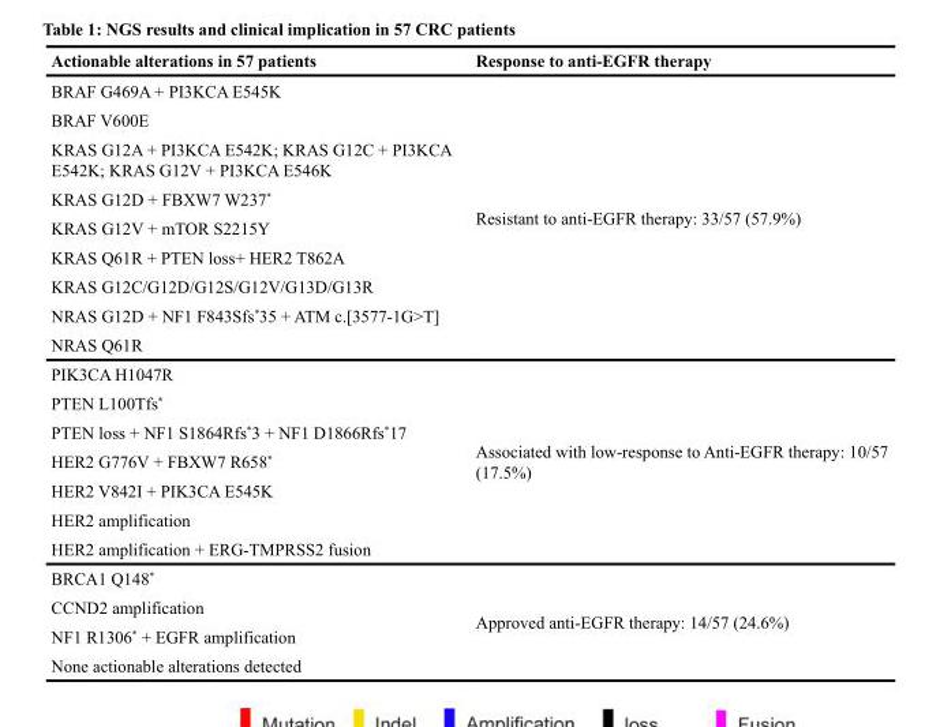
<table><thead><tr><td>Actionable alterations in 57 patients</td><td>Response to anti-EGFR therapy</td></tr></thead><tbody><tr><td>BRAF G469A + PI3KCA E545K</td><td rowspan="9">Resistant to anti-EGFR therapy: 33/57 (57.9%)</td></tr><tr><td>BRAF V600E</td></tr><tr><td>KRAS G12A + PI3KCA E542K; KRAS G12C + PI3KCA E542K; KRAS G12V + PI3KCA E546K</td></tr><tr><td>KRAS G12D + FBXW7 W237*</td></tr><tr><td>KRAS G12V + mTOR S2215Y</td></tr><tr><td>KRAS Q61R + PTEN loss+ HER2 T862A</td></tr><tr><td>KRAS G12C/G12D/G12S/G12V/G13D/G13R</td></tr><tr><td>NRAS G12D + NF1 F843Sfs*35 + ATM c.[3577-1G&gt;T]</td></tr><tr><td>NRAS Q61R</td></tr><tr><td>PIK3CA H1047R</td><td rowspan="7">Associated with low-response to Anti-EGFR therapy: 10/57 (17.5%)</td></tr><tr><td>PTEN L100Tfs*</td></tr><tr><td>PTEN loss + NF1 S1864Rfs*3 + NF1 D1866Rfs*17</td></tr><tr><td>HER2 G776V + FBXW7 R658*</td></tr><tr><td>HER2 V842I + PIK3CA E545K</td></tr><tr><td>HER2 amplification</td></tr><tr><td>HER2 amplification + ERG-TMPRSS2 fusion</td></tr><tr><td>BRCA1 Q148*</td><td rowspan="4">Approved anti-EGFR therapy: 14/57 (24.6%)</td></tr><tr><td>CCND2 amplification</td></tr><tr><td>NF1 R1306* + EGFR amplification</td></tr><tr><td>None actionable alterations detected</td></tr></tbody></table>